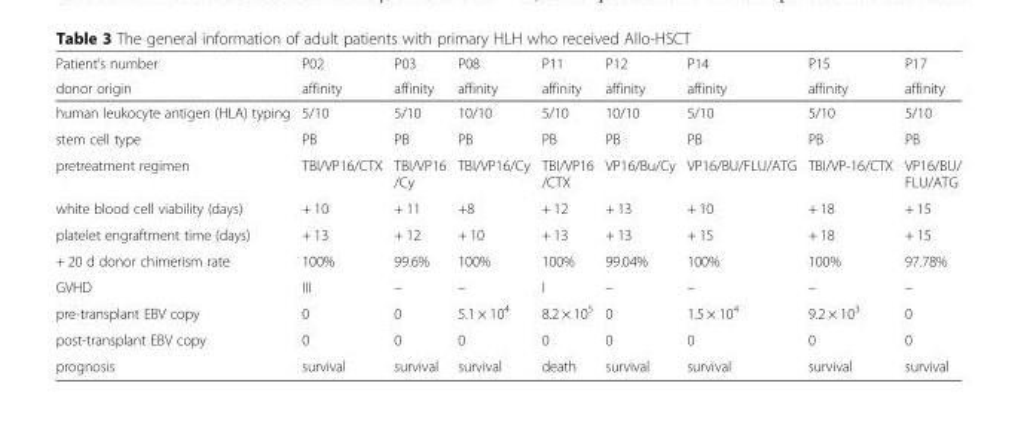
<table><thead><tr><td rowspan="2">Patient’s number donor origin</td><td rowspan="2">P02 affinity</td><td rowspan="2">P03 affinity</td><td rowspan="2">P08 affinity</td><td rowspan="2">P11 affinity</td><td rowspan="2">P12 affinity</td><td rowspan="2">P14 affinity</td><td rowspan="2">P15 affinity</td><td rowspan="2">P17 affinity</td></tr><tr></tr></thead><tbody><tr><td>human leukocyte antigen (HLA) typing</td><td>5/10</td><td>5/10</td><td>10/10</td><td>5/10</td><td>10/10</td><td>5/10</td><td>5/10</td><td>5/10</td></tr><tr><td>stem cell type</td><td>PB</td><td>PB</td><td>PB</td><td>PB</td><td>PB</td><td>PB</td><td>PB</td><td>PB</td></tr><tr><td>pretreatment regimen</td><td>TBI/VP16/CTX</td><td>TBI/VP16 /Cy</td><td>TBI/VP16/Cy</td><td>TBI/VP16 /CTX</td><td>VP16/Bu/Cy</td><td>VP16/BU/FLU/ATG</td><td>TBI/VP-16/CTX</td><td>VP16/BU/ FLU/ATG</td></tr><tr><td>white blood cell viability (days)</td><td>+ 10</td><td>+ 11</td><td>+8</td><td>+ 12</td><td>+ 13</td><td>+ 10</td><td>+ 18</td><td>+ 15</td></tr><tr><td>platelet engraftment time (days)</td><td>+ 13</td><td>+ 12</td><td>+ 10</td><td>+ 13</td><td>+ 13</td><td>+ 15</td><td>+ 18</td><td>+ 15</td></tr><tr><td>+ 20 d donor chimerism rate</td><td>100%</td><td>99.6%</td><td>100%</td><td>100%</td><td>99.04%</td><td>100%</td><td>100%</td><td>97.78%</td></tr><tr><td>GVHD</td><td>III</td><td>–</td><td>–</td><td>I</td><td>–</td><td>–</td><td>–</td><td>–</td></tr><tr><td>pre-transplant EBV copy</td><td>0</td><td>0</td><td>5.1 × 10<sup>4</sup></td><td>8.2 × 10<sup>5</sup></td><td>0</td><td>1.5 × 10<sup>4</sup></td><td>9.2 × 10<sup>3</sup></td><td>0</td></tr><tr><td>post-transplant EBV copy</td><td>0</td><td>0</td><td>0</td><td>0</td><td>0</td><td>0</td><td>0</td><td>0</td></tr><tr><td>prognosis</td><td>survival</td><td>survival</td><td>survival</td><td>death</td><td>survival</td><td>survival</td><td>survival</td><td>survival</td></tr></tbody></table>